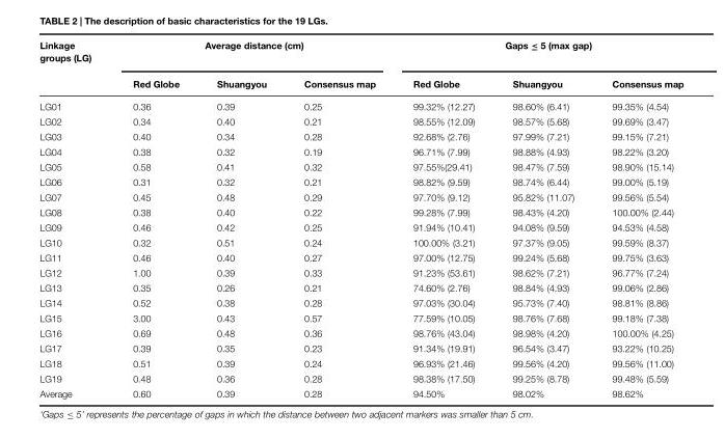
<table><thead><tr><td rowspan="2">Linkage groups (LG)</td><td colspan="3">Average distance (cm)</td><td colspan="3">Gaps ≤ 5 (max gap)</td></tr><tr><td>Red Globe</td><td>Shuangyou</td><td>Consensus map</td><td>Red Globe</td><td>Shuangyou</td><td>Consensus map</td></tr></thead><tbody><tr><td>LG01</td><td>0.36</td><td>0.39</td><td>0.25</td><td>99.32% (12.27)</td><td>98.60% (6.41)</td><td>99.35% (4.54)</td></tr><tr><td>LG02</td><td>0.34</td><td>0.40</td><td>0.21</td><td>98.55% (12.09)</td><td>98.57% (5.68)</td><td>99.69% (3.47)</td></tr><tr><td>LG03</td><td>0.40</td><td>0.34</td><td>0.28</td><td>92.68% (2.76)</td><td>97.99% (7.21)</td><td>99.15% (7.21)</td></tr><tr><td>LG04</td><td>0.38</td><td>0.32</td><td>0.19</td><td>96.71% (7.99)</td><td>98.88% (4.93)</td><td>98.22% (3.20)</td></tr><tr><td>LG05</td><td>0.58</td><td>0.41</td><td>0.32</td><td>97.55%(29.41)</td><td>98.47% (7.59)</td><td>98.90% (15.14)</td></tr><tr><td>LG06</td><td>0.31</td><td>0.32</td><td>0.21</td><td>98.82% (9.59)</td><td>98.74% (6.44)</td><td>99.00% (5.19)</td></tr><tr><td>LG07</td><td>0.45</td><td>0.48</td><td>0.29</td><td>97.70% (9.12)</td><td>95.82% (11.07)</td><td>99.56% (5.54)</td></tr><tr><td>LG08</td><td>0.38</td><td>0.40</td><td>0.22</td><td>99.28% (7.99)</td><td>98.43% (4.20)</td><td>100.00% (2.44)</td></tr><tr><td>LG09</td><td>0.46</td><td>0.42</td><td>0.25</td><td>91.94% (10.41)</td><td>94.08% (9.59)</td><td>94.53% (4.58)</td></tr><tr><td>LG10</td><td>0.32</td><td>0.51</td><td>0.24</td><td>100.00% (3.21)</td><td>97.37% (9.05)</td><td>99.59% (8.37)</td></tr><tr><td>LG11</td><td>0.46</td><td>0.40</td><td>0.27</td><td>97.00% (12.75)</td><td>99.24% (5.68)</td><td>99.75% (3.63)</td></tr><tr><td>LG12</td><td>1.00</td><td>0.39</td><td>0.33</td><td>91.23% (53.61)</td><td>98.62% (7.21)</td><td>96.77% (7.24)</td></tr><tr><td>LG13</td><td>0.35</td><td>0.26</td><td>0.21</td><td>74.60% (2.76)</td><td>98.84% (4.93)</td><td>99.06% (2.86)</td></tr><tr><td>LG14</td><td>0.52</td><td>0.38</td><td>0.28</td><td>97.03% (30.04)</td><td>95.73% (7.40)</td><td>98.81% (8.86)</td></tr><tr><td>LG15</td><td>3.00</td><td>0.43</td><td>0.57</td><td>77.59% (10.05)</td><td>98.76% (7.68)</td><td>99.18% (7.38)</td></tr><tr><td>LG16</td><td>0.69</td><td>0.48</td><td>0.36</td><td>98.76% (43.04)</td><td>98.98% (4.20)</td><td>100.00% (4.25)</td></tr><tr><td>LG17</td><td>0.39</td><td>0.35</td><td>0.23</td><td>91.34% (19.91)</td><td>96.54% (3.47)</td><td>93.22% (10.25)</td></tr><tr><td>LG18</td><td>0.51</td><td>0.39</td><td>0.24</td><td>96.93% (21.46)</td><td>99.56% (4.20)</td><td>99.56% (11.00)</td></tr><tr><td>LG19</td><td>0.48</td><td>0.36</td><td>0.28</td><td>98.38% (17.50)</td><td>99.25% (8.78)</td><td>99.48% (5.59)</td></tr><tr><td>Average</td><td>0.60</td><td>0.39</td><td>0.28</td><td>94.50%</td><td>98.02%</td><td>98.62%</td></tr></tbody></table>